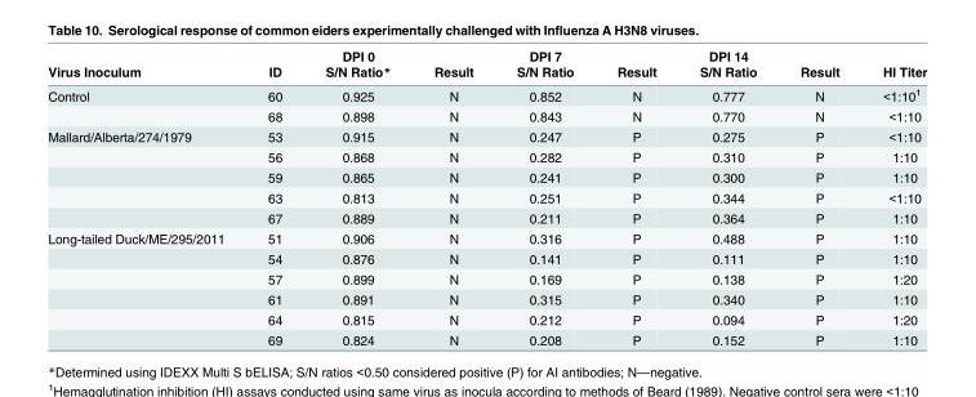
<table><thead><tr><td rowspan="2">Virus Inoculum</td><td rowspan="2">ID</td><td rowspan="2">DPI 0 S/N Ratio*</td><td rowspan="2">Result</td><td rowspan="2">DPI 7 S/N Ratio</td><td rowspan="2">Result</td><td rowspan="2">DPI 14 S/N Ratio</td><td rowspan="2">Result</td><td rowspan="2">HI Titer</td></tr><tr></tr></thead><tbody><tr><td rowspan="2">Control</td><td>60</td><td>0.925</td><td>N</td><td>0.852</td><td>N</td><td>0.777</td><td>N</td><td>&lt;1:10<sup>1</sup></td></tr><tr><td>68</td><td>0.898</td><td>N</td><td>0.843</td><td>N</td><td>0.770</td><td>N</td><td>&lt;1:10</td></tr><tr><td rowspan="5">Mallard/Alberta/274/1979</td><td>53</td><td>0.915</td><td>N</td><td>0.247</td><td>P</td><td>0.275</td><td>P</td><td>&lt;1:10</td></tr><tr><td>56</td><td>0.868</td><td>N</td><td>0.282</td><td>P</td><td>0.310</td><td>P</td><td>1:10</td></tr><tr><td>59</td><td>0.865</td><td>N</td><td>0.241</td><td>P</td><td>0.300</td><td>P</td><td>1:10</td></tr><tr><td>63</td><td>0.813</td><td>N</td><td>0.251</td><td>P</td><td>0.344</td><td>P</td><td>&lt;1:10</td></tr><tr><td>67</td><td>0.889</td><td>N</td><td>0.211</td><td>P</td><td>0.364</td><td>P</td><td>1:10</td></tr><tr><td rowspan="6">Long-tailed Duck/ME/295/2011</td><td>51</td><td>0.906</td><td>N</td><td>0.316</td><td>P</td><td>0.488</td><td>P</td><td>1:10</td></tr><tr><td>54</td><td>0.876</td><td>N</td><td>0.141</td><td>P</td><td>0.111</td><td>P</td><td>1:10</td></tr><tr><td>57</td><td>0.899</td><td>N</td><td>0.169</td><td>P</td><td>0.138</td><td>P</td><td>1:20</td></tr><tr><td>61</td><td>0.891</td><td>N</td><td>0.315</td><td>P</td><td>0.340</td><td>P</td><td>1:10</td></tr><tr><td>64</td><td>0.815</td><td>N</td><td>0.212</td><td>P</td><td>0.094</td><td>P</td><td>1:20</td></tr><tr><td>69</td><td>0.824</td><td>N</td><td>0.208</td><td>P</td><td>0.152</td><td>P</td><td>1:10</td></tr></tbody></table>